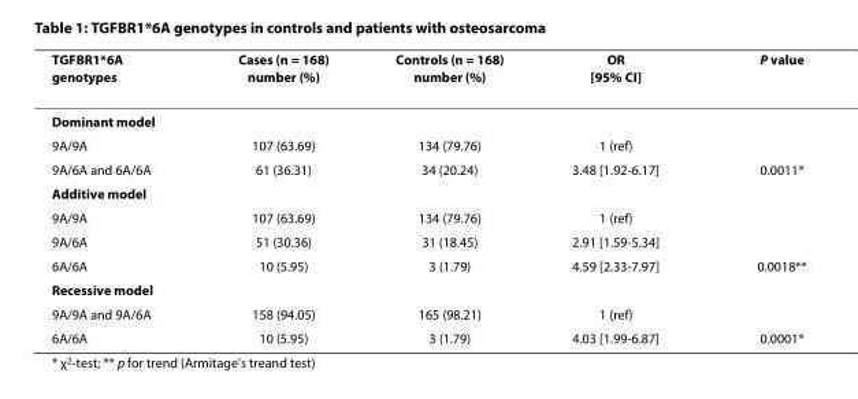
<table><thead><tr><td>TGFBR1*6A genotypes</td><td>Cases (n = 168) number (%)</td><td>Controls (n = 168) number (%)</td><td>OR [95% CI]</td><td>P value</td></tr></thead><tbody><tr><td colspan="5">Dominant model</td></tr><tr><td>9A/9A</td><td>107 (63.69)</td><td>134 (79.76)</td><td>1 (ref)</td><td></td></tr><tr><td>9A/6A and 6A/6A</td><td>61 (36.31)</td><td>34 (20.24)</td><td>3.48 [1.92-6.17]</td><td>0.0011*</td></tr><tr><td colspan="5">Additive model</td></tr><tr><td>9A/9A</td><td>107 (63.69)</td><td>134 (79.76)</td><td>1 (ref)</td><td></td></tr><tr><td>9A/6A</td><td>51 (30.36)</td><td>31 (18.45)</td><td>2.91 [1.59-5.34]</td><td></td></tr><tr><td>6A/6A</td><td>10 (5.95)</td><td>3 (1.79)</td><td>4.59 [2.33-7.97]</td><td>0.0018**</td></tr><tr><td colspan="5">Recessive model</td></tr><tr><td>9A/9A and 9A/6A</td><td>158 (94.05)</td><td>165 (98.21)</td><td>1 (ref)</td><td></td></tr><tr><td>6A/6A</td><td>10 (5.95)</td><td>3 (1.79)</td><td>4.03 [1.99-6.87]</td><td>0.0001*</td></tr></tbody></table>